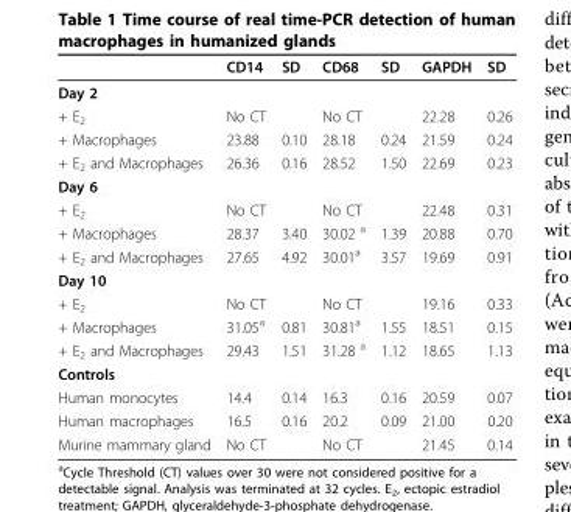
<table><thead><tr><td></td><td>CD14</td><td>SD</td><td>CD68</td><td>SD</td><td>GAPDH</td><td>SD</td></tr></thead><tbody><tr><td colspan="7">Day 2</td></tr><tr><td>+ E<sub>2</sub></td><td>No CT</td><td></td><td>No CT</td><td></td><td>22.28</td><td>0.26</td></tr><tr><td>+ Macrophages</td><td>23.88</td><td>0.10</td><td>28.18</td><td>0.24</td><td>21.59</td><td>0.24</td></tr><tr><td>+ E<sub>2</sub> and Macrophages</td><td>26.36</td><td>0.16</td><td>28.52</td><td>1.50</td><td>22.69</td><td>0.23</td></tr><tr><td colspan="7">Day 6</td></tr><tr><td>+ E<sub>2</sub></td><td>No CT</td><td></td><td>No CT</td><td></td><td>22.48</td><td>0.31</td></tr><tr><td>+ Macrophages</td><td>28.37</td><td>3.40</td><td>30.02 <sup>a</sup></td><td>1.39</td><td>20.88</td><td>0.70</td></tr><tr><td>+ E<sub>2</sub> and Macrophages</td><td>27.65</td><td>4.92</td><td>30.01<sup>a</sup></td><td>3.57</td><td>19.69</td><td>0.91</td></tr><tr><td colspan="7">Day 10</td></tr><tr><td>+ E<sub>2</sub></td><td>No CT</td><td></td><td>No CT</td><td></td><td>19.16</td><td>0.33</td></tr><tr><td>+ Macrophages</td><td>31.05<sup>a</sup></td><td>0.81</td><td>30.81<sup>a</sup></td><td>1.55</td><td>18.51</td><td>0.15</td></tr><tr><td>+ E<sub>2</sub> and Macrophages</td><td>29.43</td><td>1.51</td><td>31.28 <sup>a</sup></td><td>1.12</td><td>18.65</td><td>1.13</td></tr><tr><td colspan="7">Controls</td></tr><tr><td>Human monocytes</td><td>14.4</td><td>0.14</td><td>16.3</td><td>0.16</td><td>20.59</td><td>0.07</td></tr><tr><td>Human macrophages</td><td>16.5</td><td>0.16</td><td>20.2</td><td>0.09</td><td>21.00</td><td>0.20</td></tr><tr><td>Murine mammary gland</td><td>No CT</td><td></td><td>No CT</td><td></td><td>21.45</td><td>0.14</td></tr></tbody></table>